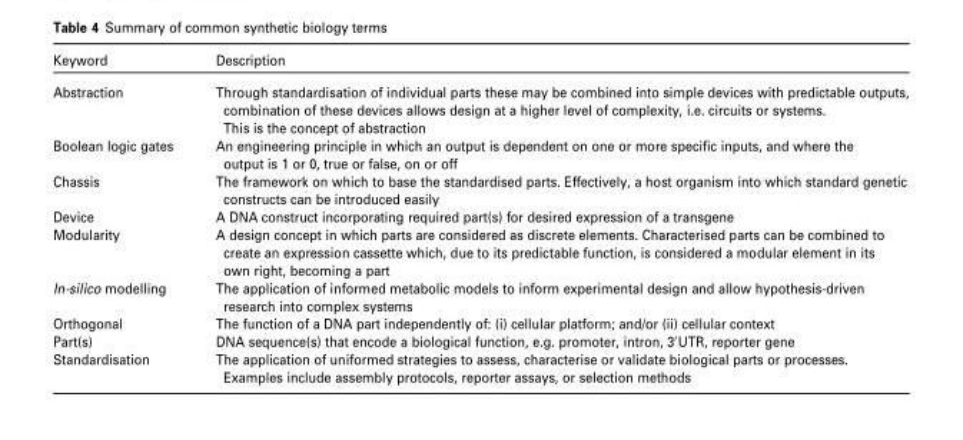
<table><thead><tr><td>Keyword</td><td>Description</td></tr></thead><tbody><tr><td>Abstraction</td><td>Through standardisation of individual parts these may be combined into simple devices with predictable outputs, combination of these devices allows design at a higher level of complexity, i.e. circuits or systems. This is the concept of abstraction</td></tr><tr><td>Boolean logic gates</td><td>An engineering principle in which an output is dependent on one or more specific inputs, and where the output is 1 or 0, true or false, on or off</td></tr><tr><td>Chassis</td><td>The framework on which to base the standardised parts. Effectively, a host organism into which standard genetic constructs can be introduced easily</td></tr><tr><td>Device</td><td>A DNA construct incorporating required part(s) for desired expression of a transgene</td></tr><tr><td>Modularity</td><td>A design concept in which parts are considered as discrete elements. Characterised parts can be combined to create an expression cassette which, due to its predictable function, is considered a modular element in its own right, becoming a part</td></tr><tr><td>In-silico modelling</td><td>The application of informed metabolic models to inform experimental design and allow hypothesis-driven research into complex systems</td></tr><tr><td>Orthogonal</td><td>The function of a DNA part independently of: (i) cellular platform; and/or (ii) cellular context</td></tr><tr><td>Part(s)</td><td>DNA sequence(s) that encode a biological function, e.g. promoter, intron, 3′UTR, reporter gene</td></tr><tr><td>Standardisation</td><td>The application of uniformed strategies to assess, characterise or validate biological parts or processes. Examples include assembly protocols, reporter assays, or selection methods</td></tr></tbody></table>